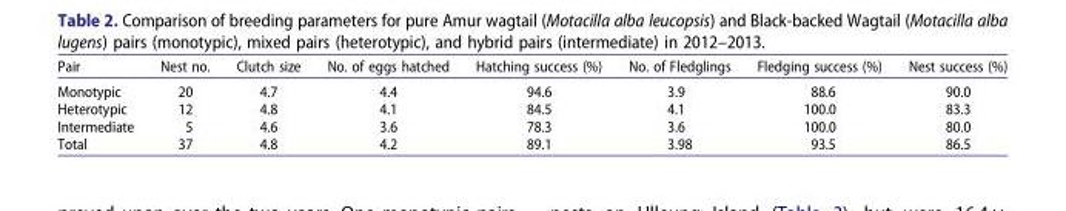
<table><thead><tr><td>Pair</td><td>Nest no.</td><td>Clutch size</td><td>No. of eggs hatched</td><td>Hatching success (%)</td><td>No. of Fledglings</td><td>Fledging success (%)</td><td>Nest success (%)</td></tr></thead><tbody><tr><td>Monotypic</td><td>20</td><td>4.7</td><td>4.4</td><td>94.6</td><td>3.9</td><td>88.6</td><td>90.0</td></tr><tr><td>Heterotypic</td><td>12</td><td>4.8</td><td>4.1</td><td>84.5</td><td>4.1</td><td>100.0</td><td>83.3</td></tr><tr><td>Intermediate</td><td>5</td><td>4.6</td><td>3.6</td><td>78.3</td><td>3.6</td><td>100.0</td><td>80.0</td></tr><tr><td>Total</td><td>37</td><td>4.8</td><td>4.2</td><td>89.1</td><td>3.98</td><td>93.5</td><td>86.5</td></tr></tbody></table>